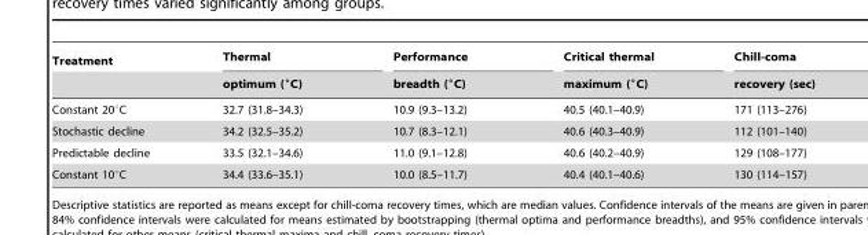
<table><thead><tr><td rowspan="2">Treatment</td><td rowspan="2">Thermal optimum (°C)</td><td rowspan="2">Performance breadth (°C)</td><td rowspan="2">Critical thermal maximum (°C)</td><td rowspan="2">Chill-coma recovery (sec)</td></tr><tr></tr></thead><tbody><tr><td>Constant 20°C</td><td>32.7 (31.8–34.3)</td><td>10.9 (9.3–13.2)</td><td>40.5 (40.1–40.9)</td><td>171 (113–276)</td></tr><tr><td>Stochastic decline</td><td>34.2 (32.5–35.2)</td><td>10.7 (8.3–12.1)</td><td>40.6 (40.3–40.9)</td><td>112 (101–140)</td></tr><tr><td>Predictable decline</td><td>33.5 (32.1–34.6)</td><td>11.0 (9.1–12.8)</td><td>40.6 (40.2–40.9)</td><td>129 (108–177)</td></tr><tr><td>Constant 10°C</td><td>34.4 (33.6–35.1)</td><td>10.0 (8.5–11.7)</td><td>40.4 (40.1–40.6)</td><td>130 (114–157)</td></tr></tbody></table>